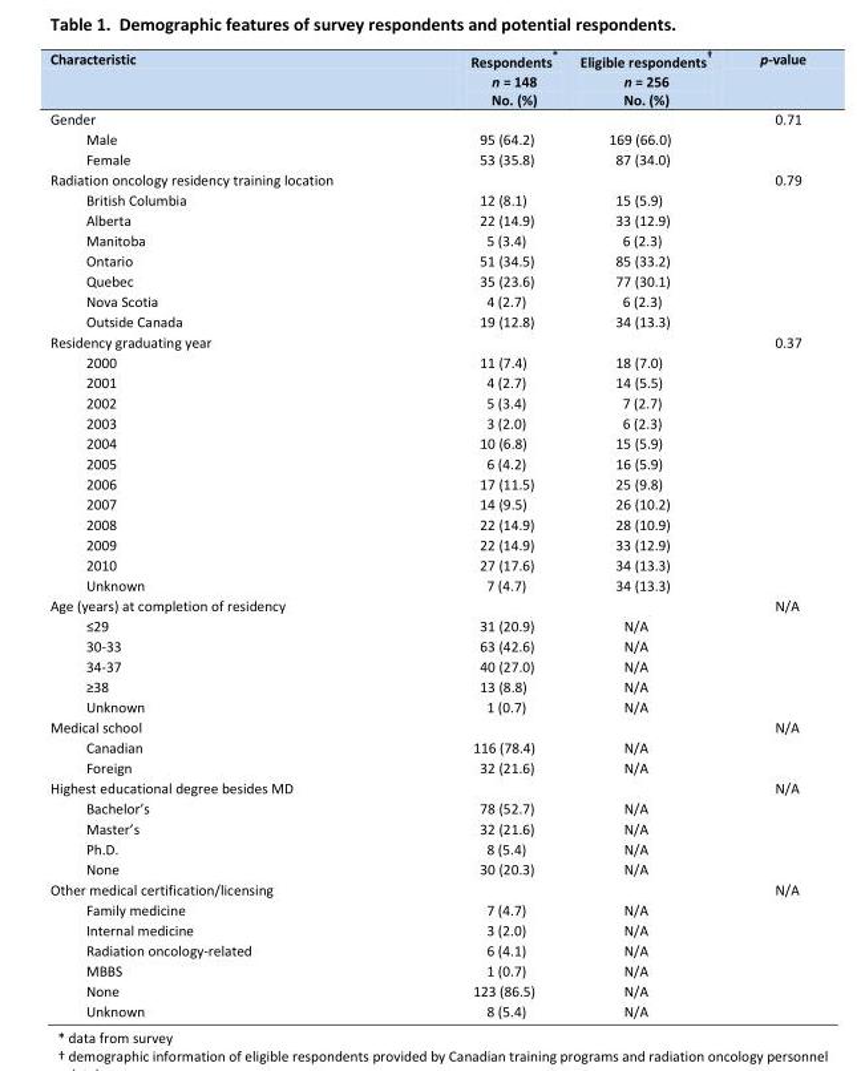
<table><thead><tr><td>Characteristic</td><td>Respondents* n = 148 No. (%)</td><td>Eligible respondents† n = 256 No. (%)</td><td>p-value</td></tr></thead><tbody><tr><td>Gender</td><td></td><td></td><td>0.71</td></tr><tr><td>Male</td><td>95 (64.2)</td><td>169 (66.0)</td><td></td></tr><tr><td>Female</td><td>53 (35.8)</td><td>87 (34.0)</td><td></td></tr><tr><td>Radiation oncology residency training location</td><td></td><td></td><td>0.79</td></tr><tr><td>British Columbia</td><td>12 (8.1)</td><td>15 (5.9)</td><td></td></tr><tr><td>Alberta</td><td>22 (14.9)</td><td>33 (12.9)</td><td></td></tr><tr><td>Manitoba</td><td>5 (3.4)</td><td>6 (2.3)</td><td></td></tr><tr><td>Ontario</td><td>51 (34.5)</td><td>85 (33.2)</td><td></td></tr><tr><td>Quebec</td><td>35 (23.6)</td><td>77 (30.1)</td><td></td></tr><tr><td>Nova Scotia</td><td>4 (2.7)</td><td>6 (2.3)</td><td></td></tr><tr><td>Outside Canada</td><td>19 (12.8)</td><td>34 (13.3)</td><td></td></tr><tr><td>Residency graduating year</td><td></td><td></td><td>0.37</td></tr><tr><td>2000</td><td>11 (7.4)</td><td>18 (7.0)</td><td></td></tr><tr><td>2001</td><td>4 (2.7)</td><td>14 (5.5)</td><td></td></tr><tr><td>2002</td><td>5 (3.4)</td><td>7 (2.7)</td><td></td></tr><tr><td>2003</td><td>3 (2.0)</td><td>6 (2.3)</td><td></td></tr><tr><td>2004</td><td>10 (6.8)</td><td>15 (5.9)</td><td></td></tr><tr><td>2005</td><td>6 (4.2)</td><td>16 (5.9)</td><td></td></tr><tr><td>2006</td><td>17 (11.5)</td><td>25 (9.8)</td><td></td></tr><tr><td>2007</td><td>14 (9.5)</td><td>26 (10.2)</td><td></td></tr><tr><td>2008</td><td>22 (14.9)</td><td>28 (10.9)</td><td></td></tr><tr><td>2009</td><td>22 (14.9)</td><td>33 (12.9)</td><td></td></tr><tr><td>2010</td><td>27 (17.6)</td><td>34 (13.3)</td><td></td></tr><tr><td>Unknown</td><td>7 (4.7)</td><td>34 (13.3)</td><td></td></tr><tr><td>Age (years) at completion of residency</td><td></td><td></td><td>N/A</td></tr><tr><td>≤29</td><td>31 (20.9)</td><td>N/A</td><td></td></tr><tr><td>30-33</td><td>63 (42.6)</td><td>N/A</td><td></td></tr><tr><td>34-37</td><td>40 (27.0)</td><td>N/A</td><td></td></tr><tr><td>≥38</td><td>13 (8.8)</td><td>N/A</td><td></td></tr><tr><td>Unknown</td><td>1 (0.7)</td><td>N/A</td><td></td></tr><tr><td>Medical school</td><td></td><td></td><td>N/A</td></tr><tr><td>Canadian</td><td>116 (78.4)</td><td>N/A</td><td></td></tr><tr><td>Foreign</td><td>32 (21.6)</td><td>N/A</td><td></td></tr><tr><td>Highest educational degree besides MD</td><td></td><td></td><td>N/A</td></tr><tr><td>Bachelor’s</td><td>78 (52.7)</td><td>N/A</td><td></td></tr><tr><td>Master’s</td><td>32 (21.6)</td><td>N/A</td><td></td></tr><tr><td>Ph.D.</td><td>8 (5.4)</td><td>N/A</td><td></td></tr><tr><td>None</td><td>30 (20.3)</td><td>N/A</td><td></td></tr><tr><td>Other medical certification/licensing</td><td></td><td></td><td>N/A</td></tr><tr><td>Family medicine</td><td>7 (4.7)</td><td>N/A</td><td></td></tr><tr><td>Internal medicine</td><td>3 (2.0)</td><td>N/A</td><td></td></tr><tr><td>Radiation oncology-related</td><td>6 (4.1)</td><td>N/A</td><td></td></tr><tr><td>MBBS</td><td>1 (0.7)</td><td>N/A</td><td></td></tr><tr><td>None</td><td>123 (86.5)</td><td>N/A</td><td></td></tr><tr><td>Unknown</td><td>8 (5.4)</td><td>N/A</td><td></td></tr></tbody></table>